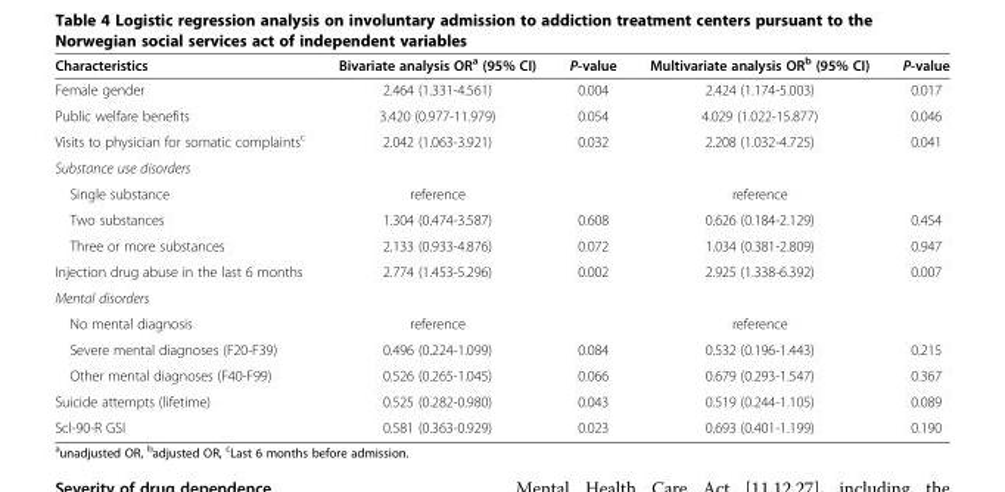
<table><thead><tr><td>Characteristics</td><td>Bivariate analysis OR<sup>a</sup> (95% CI)</td><td>P-value</td><td>Multivariate analysis OR<sup>b</sup> (95% CI)</td><td>P-value</td></tr></thead><tbody><tr><td>Female gender</td><td>2.464 (1.331-4.561)</td><td>0.004</td><td>2.424 (1.174-5.003)</td><td>0.017</td></tr><tr><td>Public welfare benefits</td><td>3.420 (0.977-11.979)</td><td>0.054</td><td>4.029 (1.022-15.877)</td><td>0.046</td></tr><tr><td>Visits to physician for somatic complaints<sup>c</sup></td><td>2.042 (1.063-3.921)</td><td>0.032</td><td>2.208 (1.032-4.725)</td><td>0.041</td></tr><tr><td colspan="5">Substance use disorders</td></tr><tr><td>Single substance</td><td>reference</td><td></td><td>reference</td><td></td></tr><tr><td>Two substances</td><td>1.304 (0.474-3.587)</td><td>0.608</td><td>0.626 (0.184-2.129)</td><td>0.454</td></tr><tr><td>Three or more substances</td><td>2.133 (0.933-4.876)</td><td>0.072</td><td>1.034 (0.381-2.809)</td><td>0.947</td></tr><tr><td>Injection drug abuse in the last 6 months</td><td>2.774 (1.453-5.296)</td><td>0.002</td><td>2.925 (1.338-6.392)</td><td>0.007</td></tr><tr><td colspan="5">Mental disorders</td></tr><tr><td>No mental diagnosis</td><td>reference</td><td></td><td>reference</td><td></td></tr><tr><td>Severe mental diagnoses (F20-F39)</td><td>0.496 (0.224-1.099)</td><td>0.084</td><td>0.532 (0.196-1.443)</td><td>0.215</td></tr><tr><td>Other mental diagnoses (F40-F99)</td><td>0.526 (0.265-1.045)</td><td>0.066</td><td>0.679 (0.293-1.547)</td><td>0.367</td></tr><tr><td>Suicide attempts (lifetime)</td><td>0.525 (0.282-0.980)</td><td>0.043</td><td>0.519 (0.244-1.105)</td><td>0.089</td></tr><tr><td>Scl-90-R GSI</td><td>0.581 (0.363-0.929)</td><td>0.023</td><td>0.693 (0.401-1.199)</td><td>0.190</td></tr></tbody></table>